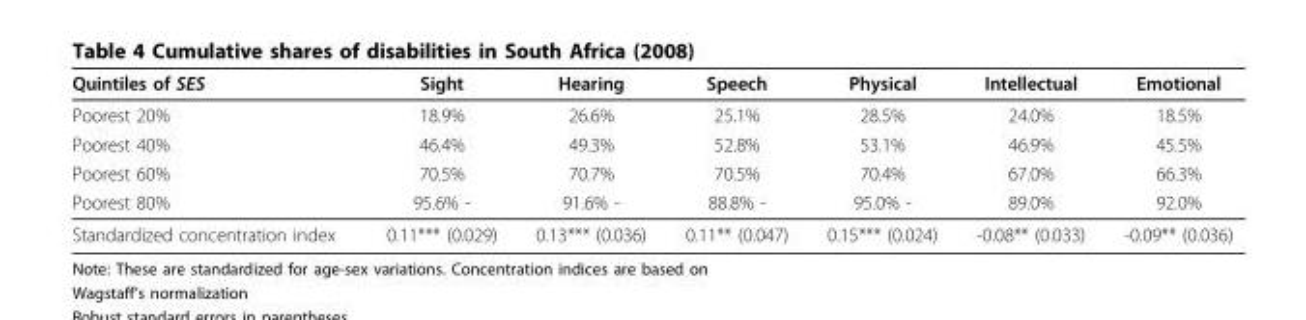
<table><tbody><tr><td>Quintiles of SES</td><td>Sight</td><td>Hearing</td><td>Speech</td><td>Physical</td><td>Intellectual</td><td>Emotional</td></tr><tr><td>Poorest 20%</td><td>18.9%</td><td>26.6%</td><td>25.1%</td><td>28.5%</td><td>24.0%</td><td>18.5%</td></tr><tr><td>Poorest 40%</td><td>46.4%</td><td>49.3%</td><td>52.8%</td><td>53.1%</td><td>46.9%</td><td>45.5%</td></tr><tr><td>Poorest 60%</td><td>70.5%</td><td>70.7%</td><td>70.5%</td><td>70.4%</td><td>67.0%</td><td>66.3%</td></tr><tr><td>Poorest 80%</td><td>95.6% -</td><td>91.6% -</td><td>88.8% -</td><td>95.0% -</td><td>89.0%</td><td>92.0%</td></tr><tr><td>Standardized concentration index</td><td>0.11*** (0.029)</td><td>0.13*** (0.036)</td><td>0.11** (0.047)</td><td>0.15*** (0.024)</td><td>-0.08** (0.033)</td><td>-0.09** (0.036)</td></tr></tbody></table>